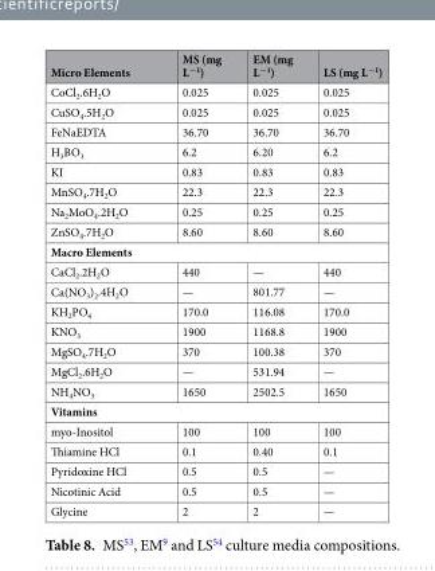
<table><thead><tr><td>Micro Elements</td><td>MS (mg L<sup>−1</sup>)</td><td>EM (mg L<sup>−1</sup>)</td><td>LS (mg L<sup>−1</sup>)</td></tr></thead><tbody><tr><td>CoCl<sub>2</sub>.6H<sub>2</sub>O</td><td>0.025</td><td>0.025</td><td>0.025</td></tr><tr><td>CuSO<sub>4</sub>.5H<sub>2</sub>O</td><td>0.025</td><td>0.025</td><td>0.025</td></tr><tr><td>FeNaEDTA</td><td>36.70</td><td>36.70</td><td>36.70</td></tr><tr><td>H<sub>3</sub>BO<sub>3</sub></td><td>6.2</td><td>6.20</td><td>6.2</td></tr><tr><td>KI</td><td>0.83</td><td>0.83</td><td>0.83</td></tr><tr><td>MnSO<sub>4</sub>.7H<sub>2</sub>O</td><td>22.3</td><td>22.3</td><td>22.3</td></tr><tr><td>Na<sub>2</sub>MoO<sub>4</sub>.2H<sub>2</sub>O</td><td>0.25</td><td>0.25</td><td>0.25</td></tr><tr><td>ZnSO<sub>4</sub>.7H<sub>2</sub>O</td><td>8.60</td><td>8.60</td><td>8.60</td></tr><tr><td colspan="4">Macro Elements</td></tr><tr><td>CaCl<sub>2</sub>.2H<sub>2</sub>O</td><td>440</td><td>—</td><td>440</td></tr><tr><td>Ca(NO<sub>3</sub>)<sub>2</sub>.4H<sub>2</sub>O</td><td>—</td><td>801.77</td><td>—</td></tr><tr><td>KH<sub>2</sub>PO<sub>4</sub></td><td>170.0</td><td>116.08</td><td>170.0</td></tr><tr><td>KNO<sub>3</sub></td><td>1900</td><td>1168.8</td><td>1900</td></tr><tr><td>MgSO<sub>4</sub>.7H<sub>2</sub>O</td><td>370</td><td>100.38</td><td>370</td></tr><tr><td>MgCl<sub>2</sub>.6H<sub>2</sub>O</td><td>—</td><td>531.94</td><td>—</td></tr><tr><td>NH<sub>4</sub>NO<sub>3</sub></td><td>1650</td><td>2502.5</td><td>1650</td></tr><tr><td colspan="4">Vitamins</td></tr><tr><td>myo-Inositol</td><td>100</td><td>100</td><td>100</td></tr><tr><td>Thiamine HCl</td><td>0.1</td><td>0.40</td><td>0.1</td></tr><tr><td>Pyridoxine HCl</td><td>0.5</td><td>0.5</td><td>—</td></tr><tr><td>Nicotinic Acid</td><td>0.5</td><td>0.5</td><td>—</td></tr><tr><td>Glycine</td><td>2</td><td>2</td><td>—</td></tr></tbody></table>